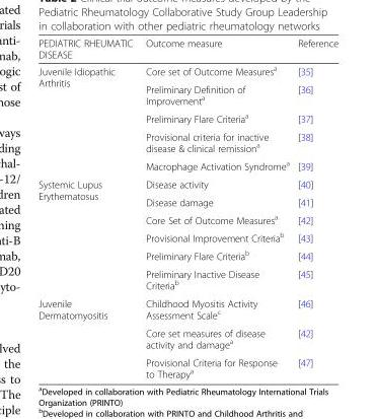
<table><thead><tr><td>PEDIATRIC RHEUMATIC DISEASE</td><td>Outcome measure</td><td>Reference</td></tr></thead><tbody><tr><td rowspan="5">Juvenile Idiopathic Arthritis</td><td>Core set of Outcome Measures<sup>a</sup></td><td>[35]</td></tr><tr><td>Preliminary Definition of Improvement<sup>a</sup></td><td>[36]</td></tr><tr><td>Preliminary Flare Criteria<sup>a</sup></td><td>[37]</td></tr><tr><td>Provisional criteria for inactive disease &amp; clinical remission<sup>a</sup></td><td>[38]</td></tr><tr><td>Macrophage Activation Syndrome<sup>a</sup></td><td>[39]</td></tr><tr><td rowspan="6">Systemic Lupus Erythematosus</td><td>Disease activity</td><td>[40]</td></tr><tr><td>Disease damage</td><td>[41]</td></tr><tr><td>Core Set of Outcome Measures<sup>a</sup></td><td>[42]</td></tr><tr><td>Provisional Improvement Criteria<sup>b</sup></td><td>[43]</td></tr><tr><td>Preliminary Flare Criteria<sup>b</sup></td><td>[44]</td></tr><tr><td>Preliminary Inactive Disease Criteria<sup>b</sup></td><td>[45]</td></tr><tr><td rowspan="3">Juvenile Dermatomyositis</td><td>Childhood Myositis Activity Assessment Scale<sup>c</sup></td><td>[46]</td></tr><tr><td>Core set measures of disease activity and damage<sup>a</sup></td><td>[42]</td></tr><tr><td>Provisional Criteria for Response to Therapy<sup>a</sup></td><td>[47]</td></tr></tbody></table>